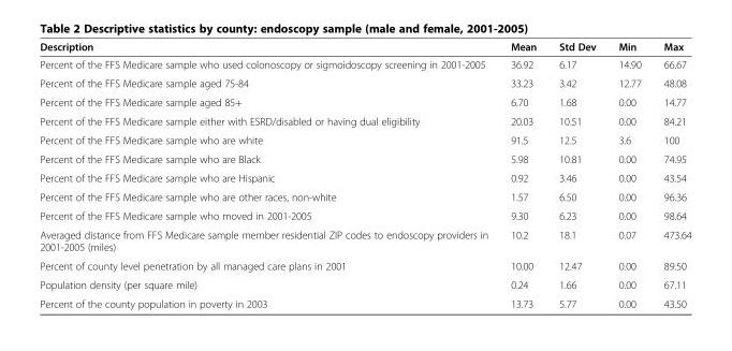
<table><thead><tr><td>Description</td><td>Mean</td><td>Std Dev</td><td>Min</td><td>Max</td></tr></thead><tbody><tr><td>Percent of the FFS Medicare sample who used colonoscopy or sigmoidoscopy screening in 2001-2005</td><td>36.92</td><td>6.17</td><td>14.90</td><td>66.67</td></tr><tr><td>Percent of the FFS Medicare sample aged 75-84</td><td>33.23</td><td>3.42</td><td>12.77</td><td>48.08</td></tr><tr><td>Percent of the FFS Medicare sample aged 85+</td><td>6.70</td><td>1.68</td><td>0.00</td><td>14.77</td></tr><tr><td>Percent of the FFS Medicare sample either with ESRD/disabled or having dual eligibility</td><td>20.03</td><td>10.51</td><td>0.00</td><td>84.21</td></tr><tr><td>Percent of the FFS Medicare sample who are white</td><td>91.5</td><td>12.5</td><td>3.6</td><td>100</td></tr><tr><td>Percent of the FFS Medicare sample who are Black</td><td>5.98</td><td>10.81</td><td>0.00</td><td>74.95</td></tr><tr><td>Percent of the FFS Medicare sample who are Hispanic</td><td>0.92</td><td>3.46</td><td>0.00</td><td>43.54</td></tr><tr><td>Percent of the FFS Medicare sample who are other races, non-white</td><td>1.57</td><td>6.50</td><td>0.00</td><td>96.36</td></tr><tr><td>Percent of the FFS Medicare sample who moved in 2001-2005</td><td>9.30</td><td>6.23</td><td>0.00</td><td>98.64</td></tr><tr><td>Averaged distance from FFS Medicare sample member residential ZIP codes to endoscopy providers in 2001-2005 (miles)</td><td>10.2</td><td>18.1</td><td>0.07</td><td>473.64</td></tr><tr><td>Percent of county level penetration by all managed care plans in 2001</td><td>10.00</td><td>12.47</td><td>0.00</td><td>89.50</td></tr><tr><td>Population density (per square mile)</td><td>0.24</td><td>1.66</td><td>0.00</td><td>67.11</td></tr><tr><td>Percent of the county population in poverty in 2003</td><td>13.73</td><td>5.77</td><td>0.00</td><td>43.50</td></tr></tbody></table>